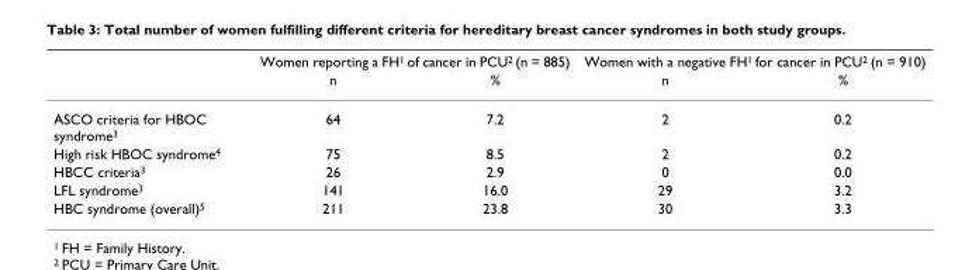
<table><thead><tr><td rowspan="2"></td><td colspan="2">Women reporting a FH<sup>1</sup> of cancer in PCU<sup>2</sup> (n = 885)</td><td colspan="2">Women with a negative FH<sup>1</sup> for cancer in PCU<sup>2</sup> (n = 910)</td></tr><tr><td>n</td><td>%</td><td>n</td><td>%</td></tr></thead><tbody><tr><td>ASCO criteria for HBOC syndrome<sup>3</sup></td><td>64</td><td>7.2</td><td>2</td><td>0.2</td></tr><tr><td>High risk HBOC syndrome<sup>4</sup></td><td>75</td><td>8.5</td><td>2</td><td>0.2</td></tr><tr><td>HBCC criteria<sup>3</sup></td><td>26</td><td>2.9</td><td>0</td><td>0.0</td></tr><tr><td>LFL syndrome<sup>3</sup></td><td>141</td><td>16.0</td><td>29</td><td>3.2</td></tr><tr><td>HBC syndrome (overall)<sup>5</sup></td><td>211</td><td>23.8</td><td>30</td><td>3.3</td></tr></tbody></table>